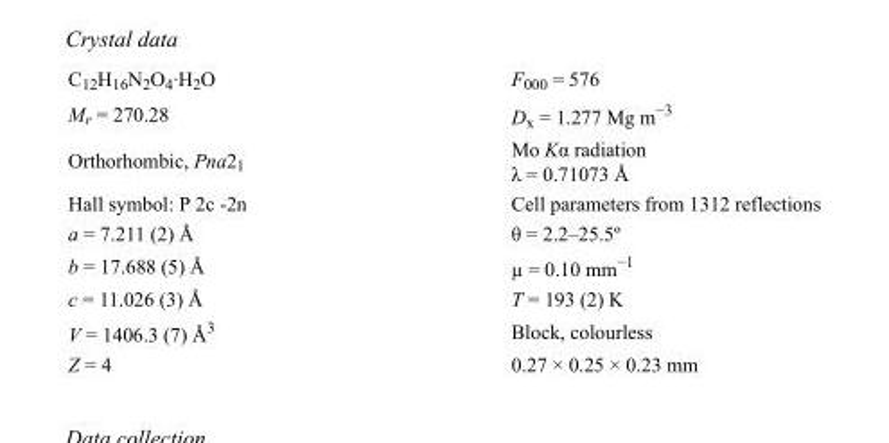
<table><tbody><tr><td>C<sub>12</sub>H<sub>16</sub>N<sub>2</sub>O<sub>4</sub>·H<sub>2</sub>O</td><td>F000 = 576</td></tr><tr><td>M<sub>r</sub> = 270.28</td><td>D<sub>x</sub> = 1.277 Mg m<sup>−3</sup></td></tr><tr><td>Orthorhombic, Pna2<sub>1</sub></td><td>Mo Kα radiation λ = 0.71073 Å</td></tr><tr><td>Hall symbol: P 2c -2n</td><td>Cell parameters from 1312 reflections</td></tr><tr><td>a = 7.211 (2) Å</td><td>θ = 2.2–25.5º</td></tr><tr><td>b = 17.688 (5) Å</td><td>µ = 0.10 mm<sup>−1</sup></td></tr><tr><td>c = 11.026 (3) Å</td><td>T = 193 (2) K</td></tr><tr><td>V = 1406.3 (7) Å<sup>3</sup></td><td>Block, colourless</td></tr><tr><td>Z = 4</td><td>0.27 × 0.25 × 0.23 mm</td></tr></tbody></table>